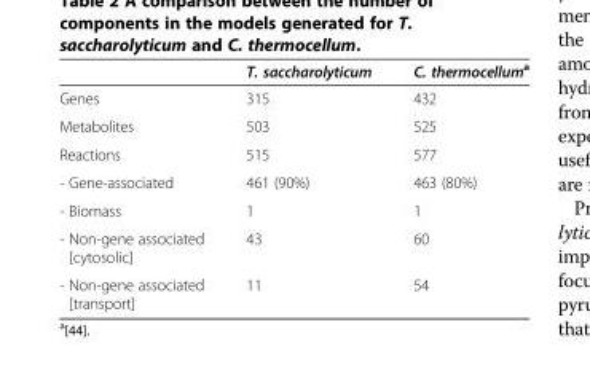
<table><thead><tr><td></td><td>T. saccharolyticum</td><td>C. thermocellum<sup>a</sup></td></tr></thead><tbody><tr><td>Genes</td><td>315</td><td>432</td></tr><tr><td>Metabolites</td><td>503</td><td>525</td></tr><tr><td>Reactions</td><td>515</td><td>577</td></tr><tr><td>- Gene-associated</td><td>461 (90%)</td><td>463 (80%)</td></tr><tr><td>- Biomass</td><td>1</td><td>1</td></tr><tr><td>- Non-gene associated [cytosolic]</td><td>43</td><td>60</td></tr><tr><td>- Non-gene associated [transport]</td><td>11</td><td>54</td></tr></tbody></table>